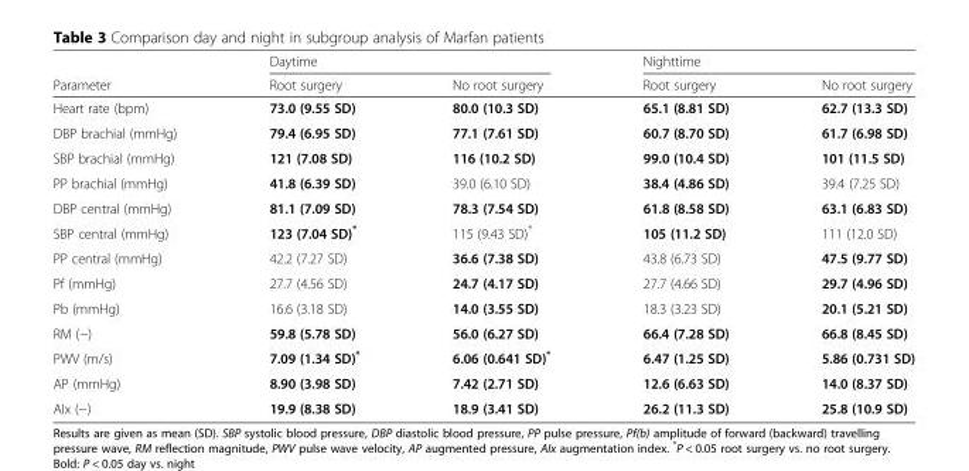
<table><thead><tr><td rowspan="2">Parameter</td><td colspan="2">Daytime</td><td colspan="2">Nighttime</td></tr><tr><td>Root surgery</td><td>No root surgery</td><td>Root surgery</td><td>No root surgery</td></tr></thead><tbody><tr><td>Heart rate (bpm)</td><td>73.0 (9.55 SD)</td><td>80.0 (10.3 SD)</td><td>65.1 (8.81 SD)</td><td>62.7 (13.3 SD)</td></tr><tr><td>DBP brachial (mmHg)</td><td>79.4 (6.95 SD)</td><td>77.1 (7.61 SD)</td><td>60.7 (8.70 SD)</td><td>61.7 (6.98 SD)</td></tr><tr><td>SBP brachial (mmHg)</td><td>121 (7.08 SD)</td><td>116 (10.2 SD)</td><td>99.0 (10.4 SD)</td><td>101 (11.5 SD)</td></tr><tr><td>PP brachial (mmHg)</td><td>41.8 (6.39 SD)</td><td>39.0 (6.10 SD)</td><td>38.4 (4.86 SD)</td><td>39.4 (7.25 SD)</td></tr><tr><td>DBP central (mmHg)</td><td>81.1 (7.09 SD)</td><td>78.3 (7.54 SD)</td><td>61.8 (8.58 SD)</td><td>63.1 (6.83 SD)</td></tr><tr><td>SBP central (mmHg)</td><td>123 (7.04 SD)*</td><td>115 (9.43 SD)*</td><td>105 (11.2 SD)</td><td>111 (12.0 SD)</td></tr><tr><td>PP central (mmHg)</td><td>42.2 (7.27 SD)</td><td>36.6 (7.38 SD)</td><td>43.8 (6.73 SD)</td><td>47.5 (9.77 SD)</td></tr><tr><td>Pf (mmHg)</td><td>27.7 (4.56 SD)</td><td>24.7 (4.17 SD)</td><td>27.7 (4.66 SD)</td><td>29.7 (4.96 SD)</td></tr><tr><td>Pb (mmHg)</td><td>16.6 (3.18 SD)</td><td>14.0 (3.55 SD)</td><td>18.3 (3.23 SD)</td><td>20.1 (5.21 SD)</td></tr><tr><td>RM (−)</td><td>59.8 (5.78 SD)</td><td>56.0 (6.27 SD)</td><td>66.4 (7.28 SD)</td><td>66.8 (8.45 SD)</td></tr><tr><td>PWV (m/s)</td><td>7.09 (1.34 SD)*</td><td>6.06 (0.641 SD)*</td><td>6.47 (1.25 SD)</td><td>5.86 (0.731 SD)</td></tr><tr><td>AP (mmHg)</td><td>8.90 (3.98 SD)</td><td>7.42 (2.71 SD)</td><td>12.6 (6.63 SD)</td><td>14.0 (8.37 SD)</td></tr><tr><td>AIx (−)</td><td>19.9 (8.38 SD)</td><td>18.9 (3.41 SD)</td><td>26.2 (11.3 SD)</td><td>25.8 (10.9 SD)</td></tr></tbody></table>